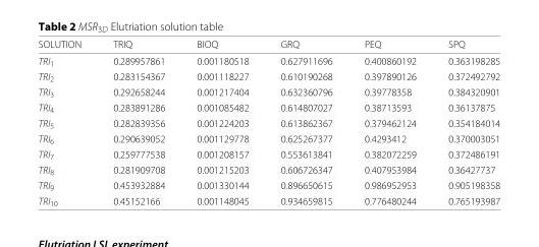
<table><thead><tr><td>SOLUTION</td><td>TRIQ</td><td>BIOQ</td><td>GRQ</td><td>PEQ</td><td>SPQ</td></tr></thead><tbody><tr><td>TRI<sub>1</sub></td><td>0.289957861</td><td>0.001180518</td><td>0.627911696</td><td>0.400860192</td><td>0.363198285</td></tr><tr><td>TRI<sub>2</sub></td><td>0.283154367</td><td>0.001118227</td><td>0.610190268</td><td>0.397890126</td><td>0.372492792</td></tr><tr><td>TRI<sub>3</sub></td><td>0.292658244</td><td>0.001217404</td><td>0.632360796</td><td>0.39778358</td><td>0.384320901</td></tr><tr><td>TRI<sub>4</sub></td><td>0.283891286</td><td>0.001085482</td><td>0.614807027</td><td>0.38713593</td><td>0.36137875</td></tr><tr><td>TRI<sub>5</sub></td><td>0.282839356</td><td>0.001224203</td><td>0.613862367</td><td>0.379462124</td><td>0.354184014</td></tr><tr><td>TRI<sub>6</sub></td><td>0.290639052</td><td>0.001129778</td><td>0.625267377</td><td>0.4293412</td><td>0.370003051</td></tr><tr><td>TRI<sub>7</sub></td><td>0.259777538</td><td>0.001208157</td><td>0.553613841</td><td>0.382072259</td><td>0.372486191</td></tr><tr><td>TRI<sub>8</sub></td><td>0.281909708</td><td>0.001215203</td><td>0.606726347</td><td>0.407953984</td><td>0.36427737</td></tr><tr><td>TRI<sub>9</sub></td><td>0.453932884</td><td>0.001330144</td><td>0.896650615</td><td>0.986952953</td><td>0.905198358</td></tr><tr><td>TRI<sub>10</sub></td><td>0.45152166</td><td>0.001148045</td><td>0.934659815</td><td>0.776480244</td><td>0.765193987</td></tr></tbody></table>